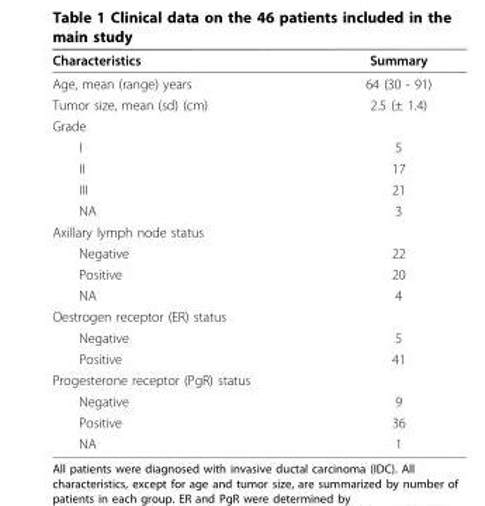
<table><thead><tr><td>Characteristics</td><td>Summary</td></tr></thead><tbody><tr><td>Age, mean (range) years</td><td>64 (30 - 91)</td></tr><tr><td>Tumor size, mean (sd) (cm)</td><td>2.5 (± 1.4)</td></tr><tr><td colspan="2">Grade</td></tr><tr><td>I</td><td>5</td></tr><tr><td>II</td><td>17</td></tr><tr><td>III</td><td>21</td></tr><tr><td>NA</td><td>3</td></tr><tr><td colspan="2">Axillary lymph node status</td></tr><tr><td>Negative</td><td>22</td></tr><tr><td>Positive</td><td>20</td></tr><tr><td>NA</td><td>4</td></tr><tr><td colspan="2">Oestrogen receptor (ER) status</td></tr><tr><td>Negative</td><td>5</td></tr><tr><td>Positive</td><td>41</td></tr><tr><td colspan="2">Progesterone receptor (PgR) status</td></tr><tr><td>Negative</td><td>9</td></tr><tr><td>Positive</td><td>36</td></tr><tr><td>NA</td><td>1</td></tr></tbody></table>